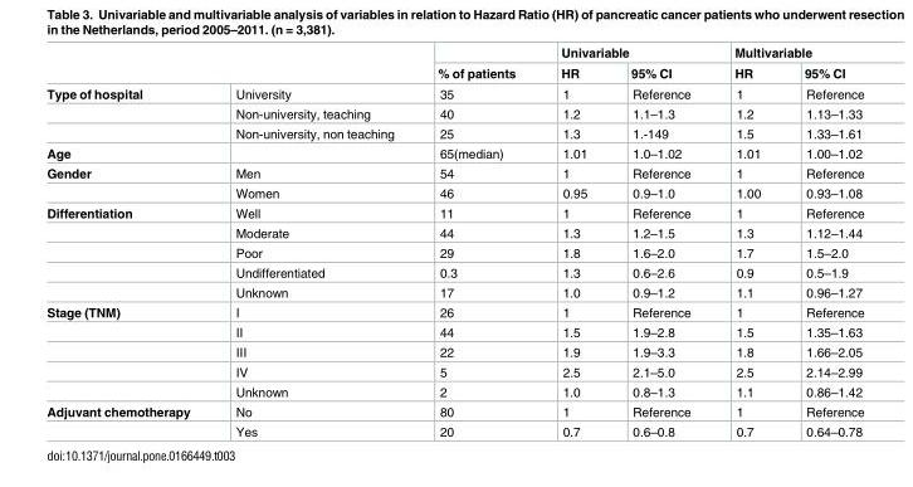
<table><thead><tr><td rowspan="2"></td><td rowspan="2"></td><td rowspan="2">% of patients</td><td colspan="2">Univariable</td><td colspan="2">Multivariable</td></tr><tr><td>HR</td><td>95% CI</td><td>HR</td><td>95% CI</td></tr></thead><tbody><tr><td rowspan="3">Type of hospital</td><td>University</td><td>35</td><td>1</td><td>Reference</td><td>1</td><td>Reference</td></tr><tr><td>Non-university, teaching</td><td>40</td><td>1.2</td><td>1.1–1.3</td><td>1.2</td><td>1.13–1.33</td></tr><tr><td>Non-university, non teaching</td><td>25</td><td>1.3</td><td>1.-149</td><td>1.5</td><td>1.33–1.61</td></tr><tr><td>Age</td><td></td><td>65(median)</td><td>1.01</td><td>1.0–1.02</td><td>1.01</td><td>1.00–1.02</td></tr><tr><td rowspan="2">Gender</td><td>Men</td><td>54</td><td>1</td><td>Reference</td><td>1</td><td>Reference</td></tr><tr><td>Women</td><td>46</td><td>0.95</td><td>0.9–1.0</td><td>1.00</td><td>0.93–1.08</td></tr><tr><td rowspan="5">Differentiation</td><td>Well</td><td>11</td><td>1</td><td>Reference</td><td>1</td><td>Reference</td></tr><tr><td>Moderate</td><td>44</td><td>1.3</td><td>1.2–1.5</td><td>1.3</td><td>1.12–1.44</td></tr><tr><td>Poor</td><td>29</td><td>1.8</td><td>1.6–2.0</td><td>1.7</td><td>1.5–2.0</td></tr><tr><td>Undifferentiated</td><td>0.3</td><td>1.3</td><td>0.6–2.6</td><td>0.9</td><td>0.5–1.9</td></tr><tr><td>Unknown</td><td>17</td><td>1.0</td><td>0.9–1.2</td><td>1.1</td><td>0.96–1.27</td></tr><tr><td rowspan="5">Stage (TNM)</td><td>I</td><td>26</td><td>1</td><td>Reference</td><td>1</td><td>Reference</td></tr><tr><td>II</td><td>44</td><td>1.5</td><td>1.9–2.8</td><td>1.5</td><td>1.35–1.63</td></tr><tr><td>III</td><td>22</td><td>1.9</td><td>1.9–3.3</td><td>1.8</td><td>1.66–2.05</td></tr><tr><td>IV</td><td>5</td><td>2.5</td><td>2.1–5.0</td><td>2.5</td><td>2.14–2.99</td></tr><tr><td>Unknown</td><td>2</td><td>1.0</td><td>0.8–1.3</td><td>1.1</td><td>0.86–1.42</td></tr><tr><td rowspan="2">Adjuvant chemotherapy</td><td>No</td><td>80</td><td>1</td><td>Reference</td><td>1</td><td>Reference</td></tr><tr><td>Yes</td><td>20</td><td>0.7</td><td>0.6–0.8</td><td>0.7</td><td>0.64–0.78</td></tr></tbody></table>